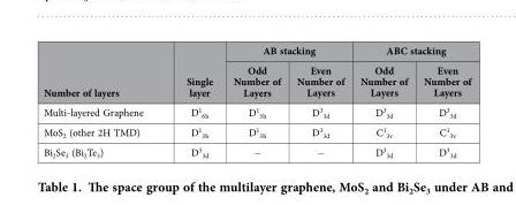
<table><thead><tr><td rowspan="2">Number of layers</td><td rowspan="2">Single layer</td><td colspan="2">AB stacking</td><td colspan="2">ABC stacking</td></tr><tr><td>Odd Number of Layers</td><td>Even Number of Layers</td><td>Odd Number of Layers</td><td>Even Number of Layers</td></tr></thead><tbody><tr><td>Multi-layered Graphene</td><td>D<sup>1</sup> <sub>6h</sub></td><td>D<sup>1</sup> <sub>3h</sub></td><td>D<sup>3</sup> <sub>3d</sub></td><td>D<sup>3</sup> <sub>3d</sub></td><td>D<sup>3</sup> <sub>3d</sub></td></tr><tr><td>MoS<sub>2</sub> (other 2H TMD)</td><td>D<sup>1</sup> <sub>3h</sub></td><td>D<sup>1</sup> <sub>3h</sub></td><td>D<sup>3</sup> <sub>3d</sub></td><td>C<sup>1</sup> <sub>3v</sub></td><td>C<sup>1</sup> <sub>3v</sub></td></tr><tr><td>Bi<sub>2</sub>Se<sub>3</sub> (Bi<sub>2</sub>Te<sub>3</sub>)</td><td>D<sup>3</sup> <sub>3d</sub></td><td>−</td><td>−</td><td>D<sup>3</sup> <sub>3d</sub></td><td>D<sup>3</sup> <sub>3d</sub></td></tr></tbody></table>